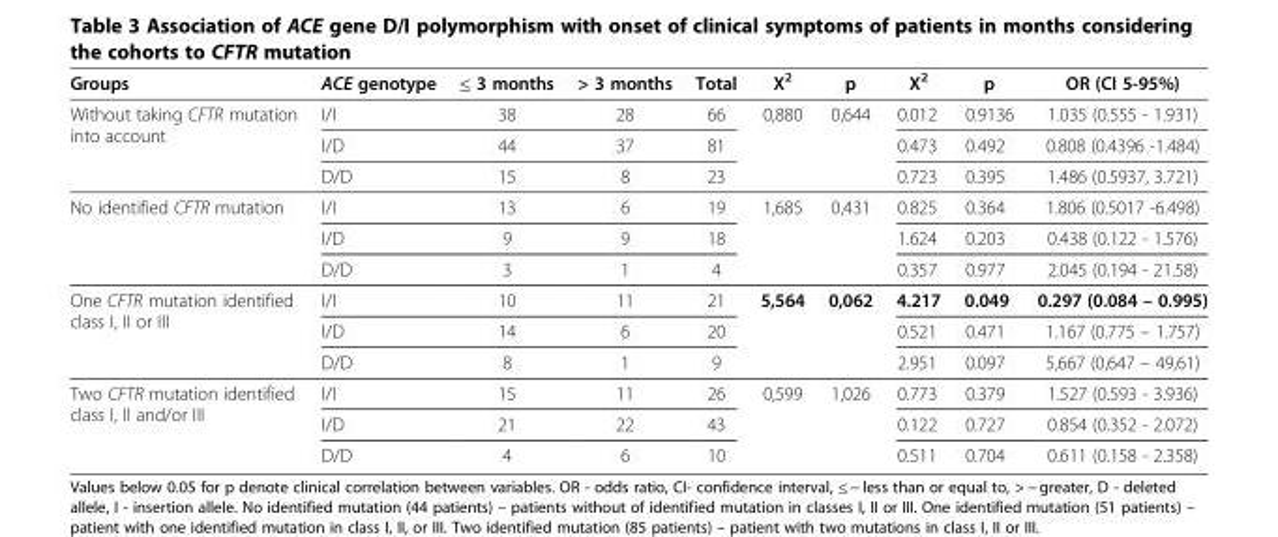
<table><thead><tr><td>Groups</td><td>ACE genotype</td><td>≤ 3 months</td><td>&gt; 3 months</td><td>Total</td><td>X<sup>2</sup></td><td>p</td><td>X<sup>2</sup></td><td>p</td><td>OR (CI 5-95%)</td></tr></thead><tbody><tr><td rowspan="3">Without taking CFTR mutation into account</td><td>I/I</td><td>38</td><td>28</td><td>66</td><td rowspan="3">0,880</td><td rowspan="3">0,644</td><td>0.012</td><td>0.9136</td><td>1.035 (0.555 - 1.931)</td></tr><tr><td>I/D</td><td>44</td><td>37</td><td>81</td><td>0.473</td><td>0.492</td><td>0.808 (0.4396 -1.484)</td></tr><tr><td>D/D</td><td>15</td><td>8</td><td>23</td><td>0.723</td><td>0.395</td><td>1.486 (0.5937, 3.721)</td></tr><tr><td rowspan="3">No identified CFTR mutation</td><td>I/I</td><td>13</td><td>6</td><td>19</td><td rowspan="3">1,685</td><td rowspan="3">0,431</td><td>0.825</td><td>0.364</td><td>1.806 (0.5017 -6.498)</td></tr><tr><td>I/D</td><td>9</td><td>9</td><td>18</td><td>1.624</td><td>0.203</td><td>0.438 (0.122 - 1.576)</td></tr><tr><td>D/D</td><td>3</td><td>1</td><td>4</td><td>0.357</td><td>0.977</td><td>2.045 (0.194 - 21.58)</td></tr><tr><td rowspan="3">One CFTR mutation identified class I, II or III</td><td>I/I</td><td>10</td><td>11</td><td>21</td><td rowspan="3">5,564</td><td rowspan="3">0,062</td><td>4.217</td><td>0.049</td><td>0.297 (0.084 – 0.995)</td></tr><tr><td>I/D</td><td>14</td><td>6</td><td>20</td><td>0.521</td><td>0.471</td><td>1.167 (0.775 – 1.757)</td></tr><tr><td>D/D</td><td>8</td><td>1</td><td>9</td><td>2.951</td><td>0.097</td><td>5,667 (0,647 – 49,61)</td></tr><tr><td rowspan="3">Two CFTR mutation identified class I, II and/or III</td><td>I/I</td><td>15</td><td>11</td><td>26</td><td rowspan="3">0,599</td><td rowspan="3">1,026</td><td>0.773</td><td>0.379</td><td>1.527 (0.593 - 3.936)</td></tr><tr><td>I/D</td><td>21</td><td>22</td><td>43</td><td>0.122</td><td>0.727</td><td>0.854 (0.352 - 2.072)</td></tr><tr><td>D/D</td><td>4</td><td>6</td><td>10</td><td>0.511</td><td>0.704</td><td>0.611 (0.158 - 2.358)</td></tr></tbody></table>